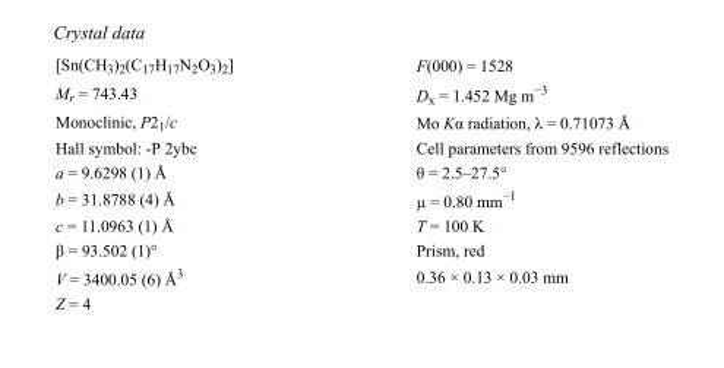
<table><tbody><tr><td>[Sn(CH<sub>3</sub>)<sub>2</sub>(C<sub>17</sub>H<sub>17</sub>N<sub>2</sub>O<sub>3</sub>)<sub>2</sub>]</td><td>F(000) = 1528</td></tr><tr><td>M<sub>r</sub> = 743.43</td><td>D<sub>x</sub> = 1.452 Mg m<sup>−3</sup></td></tr><tr><td>Monoclinic, P2<sub>1</sub>/c</td><td>Mo Kα radiation, λ = 0.71073 Å</td></tr><tr><td>Hall symbol: -P 2ybc</td><td>Cell parameters from 9596 reflections</td></tr><tr><td>a = 9.6298 (1) Å</td><td>θ = 2.5–27.5°</td></tr><tr><td>b = 31.8788 (4) Å</td><td>µ = 0.80 mm<sup>−1</sup></td></tr><tr><td>c = 11.0963 (1) Å</td><td>T = 100 K</td></tr><tr><td>β = 93.502 (1)°</td><td>Prism, red</td></tr><tr><td>V = 3400.05 (6) Å<sup>3</sup></td><td>0.36 × 0.13 × 0.03 mm</td></tr><tr><td>Z = 4</td><td></td></tr></tbody></table>